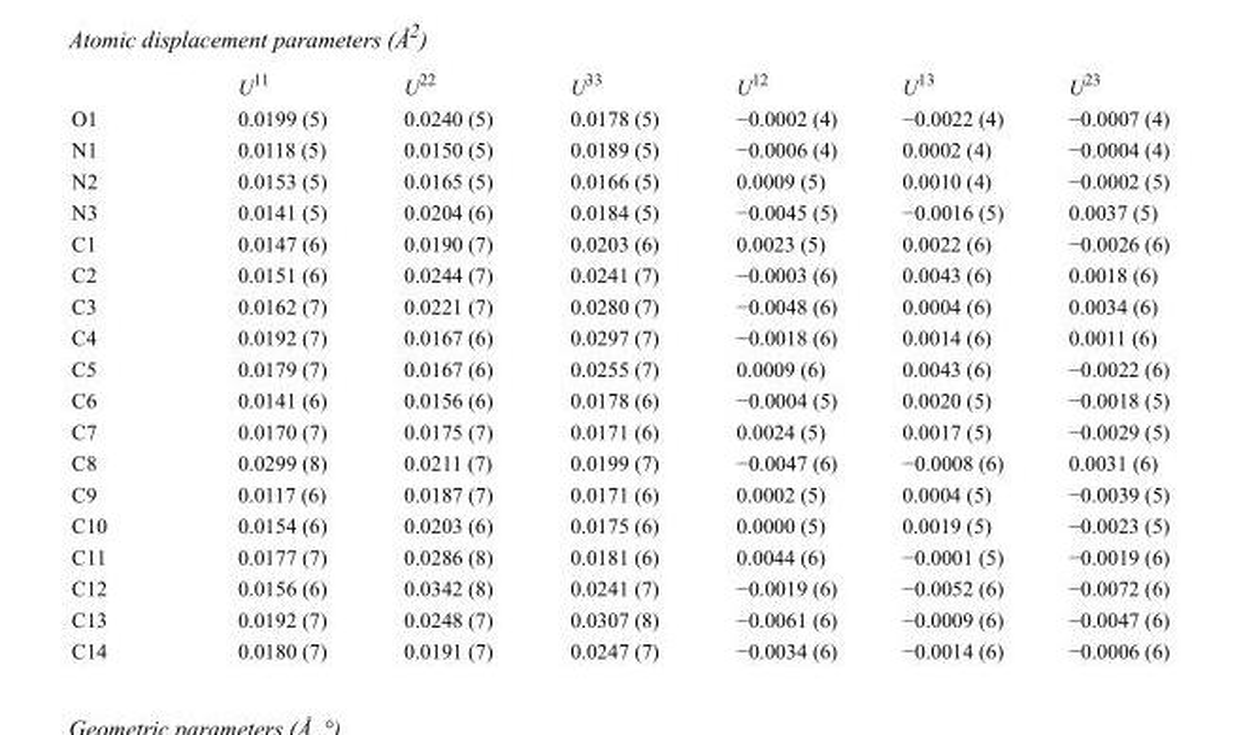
<table><thead><tr><td></td><td>U<sup>11</sup></td><td>U<sup>22</sup></td><td>U<sup>33</sup></td><td>U<sup>12</sup></td><td>U<sup>13</sup></td><td>U<sup>23</sup></td></tr></thead><tbody><tr><td>O1</td><td>0.0199 (5)</td><td>0.0240 (5)</td><td>0.0178 (5)</td><td>−0.0002 (4)</td><td>−0.0022 (4)</td><td>−0.0007 (4)</td></tr><tr><td>N1</td><td>0.0118 (5)</td><td>0.0150 (5)</td><td>0.0189 (5)</td><td>−0.0006 (4)</td><td>0.0002 (4)</td><td>−0.0004 (4)</td></tr><tr><td>N2</td><td>0.0153 (5)</td><td>0.0165 (5)</td><td>0.0166 (5)</td><td>0.0009 (5)</td><td>0.0010 (4)</td><td>−0.0002 (5)</td></tr><tr><td>N3</td><td>0.0141 (5)</td><td>0.0204 (6)</td><td>0.0184 (5)</td><td>−0.0045 (5)</td><td>−0.0016 (5)</td><td>0.0037 (5)</td></tr><tr><td>C1</td><td>0.0147 (6)</td><td>0.0190 (7)</td><td>0.0203 (6)</td><td>0.0023 (5)</td><td>0.0022 (6)</td><td>−0.0026 (6)</td></tr><tr><td>C2</td><td>0.0151 (6)</td><td>0.0244 (7)</td><td>0.0241 (7)</td><td>−0.0003 (6)</td><td>0.0043 (6)</td><td>0.0018 (6)</td></tr><tr><td>C3</td><td>0.0162 (7)</td><td>0.0221 (7)</td><td>0.0280 (7)</td><td>−0.0048 (6)</td><td>0.0004 (6)</td><td>0.0034 (6)</td></tr><tr><td>C4</td><td>0.0192 (7)</td><td>0.0167 (6)</td><td>0.0297 (7)</td><td>−0.0018 (6)</td><td>0.0014 (6)</td><td>0.0011 (6)</td></tr><tr><td>C5</td><td>0.0179 (7)</td><td>0.0167 (6)</td><td>0.0255 (7)</td><td>0.0009 (6)</td><td>0.0043 (6)</td><td>−0.0022 (6)</td></tr><tr><td>C6</td><td>0.0141 (6)</td><td>0.0156 (6)</td><td>0.0178 (6)</td><td>−0.0004 (5)</td><td>0.0020 (5)</td><td>−0.0018 (5)</td></tr><tr><td>C7</td><td>0.0170 (7)</td><td>0.0175 (7)</td><td>0.0171 (6)</td><td>0.0024 (5)</td><td>0.0017 (5)</td><td>−0.0029 (5)</td></tr><tr><td>C8</td><td>0.0299 (8)</td><td>0.0211 (7)</td><td>0.0199 (7)</td><td>−0.0047 (6)</td><td>−0.0008 (6)</td><td>0.0031 (6)</td></tr><tr><td>C9</td><td>0.0117 (6)</td><td>0.0187 (7)</td><td>0.0171 (6)</td><td>0.0002 (5)</td><td>0.0004 (5)</td><td>−0.0039 (5)</td></tr><tr><td>C10</td><td>0.0154 (6)</td><td>0.0203 (6)</td><td>0.0175 (6)</td><td>0.0000 (5)</td><td>0.0019 (5)</td><td>−0.0023 (5)</td></tr><tr><td>C11</td><td>0.0177 (7)</td><td>0.0286 (8)</td><td>0.0181 (6)</td><td>0.0044 (6)</td><td>−0.0001 (5)</td><td>−0.0019 (6)</td></tr><tr><td>C12</td><td>0.0156 (6)</td><td>0.0342 (8)</td><td>0.0241 (7)</td><td>−0.0019 (6)</td><td>−0.0052 (6)</td><td>−0.0072 (6)</td></tr><tr><td>C13</td><td>0.0192 (7)</td><td>0.0248 (7)</td><td>0.0307 (8)</td><td>−0.0061 (6)</td><td>−0.0009 (6)</td><td>−0.0047 (6)</td></tr><tr><td>C14</td><td>0.0180 (7)</td><td>0.0191 (7)</td><td>0.0247 (7)</td><td>−0.0034 (6)</td><td>−0.0014 (6)</td><td>−0.0006 (6)</td></tr></tbody></table>